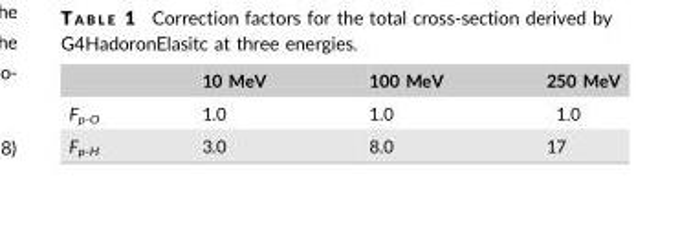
<table><thead><tr><td></td><td>10 MeV</td><td>100 MeV</td><td>250 MeV</td></tr></thead><tbody><tr><td>F<sub>p-O</sub></td><td>1.0</td><td>1.0</td><td>1.0</td></tr><tr><td>F<sub>p-H</sub></td><td>3.0</td><td>8.0</td><td>17</td></tr></tbody></table>